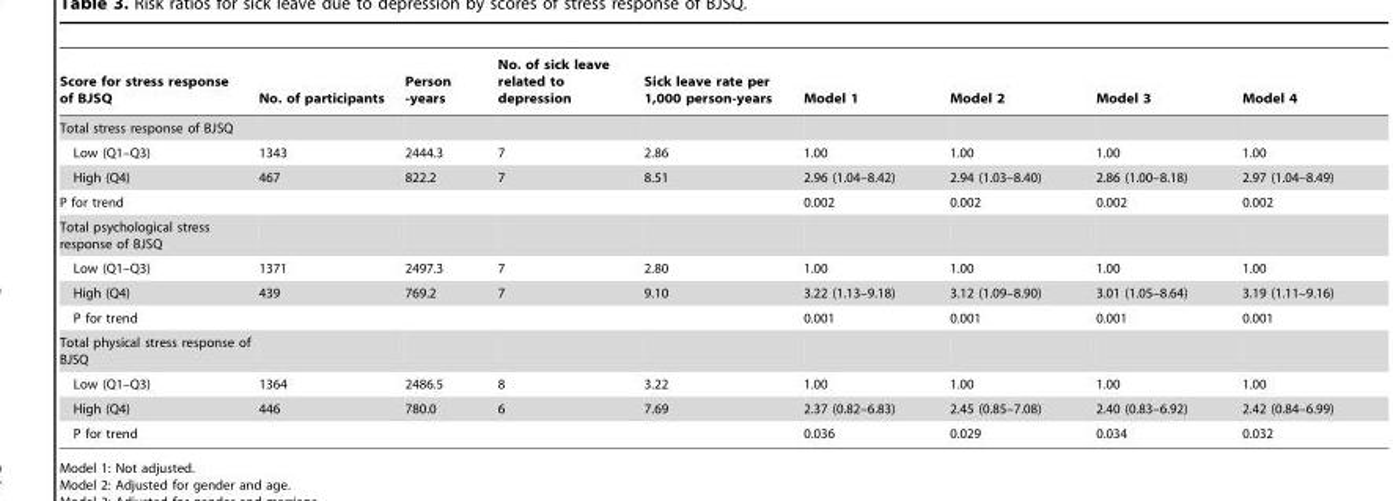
<table><thead><tr><td>Score for stress response of BJSQ</td><td>No. of participants</td><td>Person -years</td><td>No. of sick leave related to depression</td><td>Sick leave rate per 1,000 person-years</td><td>Model 1</td><td>Model 2</td><td>Model 3</td><td>Model 4</td></tr></thead><tbody><tr><td colspan="9">Total stress response of BJSQ</td></tr><tr><td>Low (Q1–Q3)</td><td>1343</td><td>2444.3</td><td>7</td><td>2.86</td><td>1.00</td><td>1.00</td><td>1.00</td><td>1.00</td></tr><tr><td>High (Q4)</td><td>467</td><td>822.2</td><td>7</td><td>8.51</td><td>2.96 (1.04–8.42)</td><td>2.94 (1.03–8.40)</td><td>2.86 (1.00–8.18)</td><td>2.97 (1.04–8.49)</td></tr><tr><td>P for trend</td><td></td><td></td><td></td><td></td><td>0.002</td><td>0.002</td><td>0.002</td><td>0.002</td></tr><tr><td colspan="9">Total psychological stress response of BJSQ</td></tr><tr><td>Low (Q1–Q3)</td><td>1371</td><td>2497.3</td><td>7</td><td>2.80</td><td>1.00</td><td>1.00</td><td>1.00</td><td>1.00</td></tr><tr><td>High (Q4)</td><td>439</td><td>769.2</td><td>7</td><td>9.10</td><td>3.22 (1.13–9.18)</td><td>3.12 (1.09–8.90)</td><td>3.01 (1.05–8.64)</td><td>3.19 (1.11–9.16)</td></tr><tr><td>P for trend</td><td></td><td></td><td></td><td></td><td>0.001</td><td>0.001</td><td>0.001</td><td>0.001</td></tr><tr><td colspan="9">Total physical stress response of BJSQ</td></tr><tr><td>Low (Q1–Q3)</td><td>1364</td><td>2486.5</td><td>8</td><td>3.22</td><td>1.00</td><td>1.00</td><td>1.00</td><td>1.00</td></tr><tr><td>High (Q4)</td><td>446</td><td>780.0</td><td>6</td><td>7.69</td><td>2.37 (0.82–6.83)</td><td>2.45 (0.85–7.08)</td><td>2.40 (0.83–6.92)</td><td>2.42 (0.84–6.99)</td></tr><tr><td>P for trend</td><td></td><td></td><td></td><td></td><td>0.036</td><td>0.029</td><td>0.034</td><td>0.032</td></tr></tbody></table>